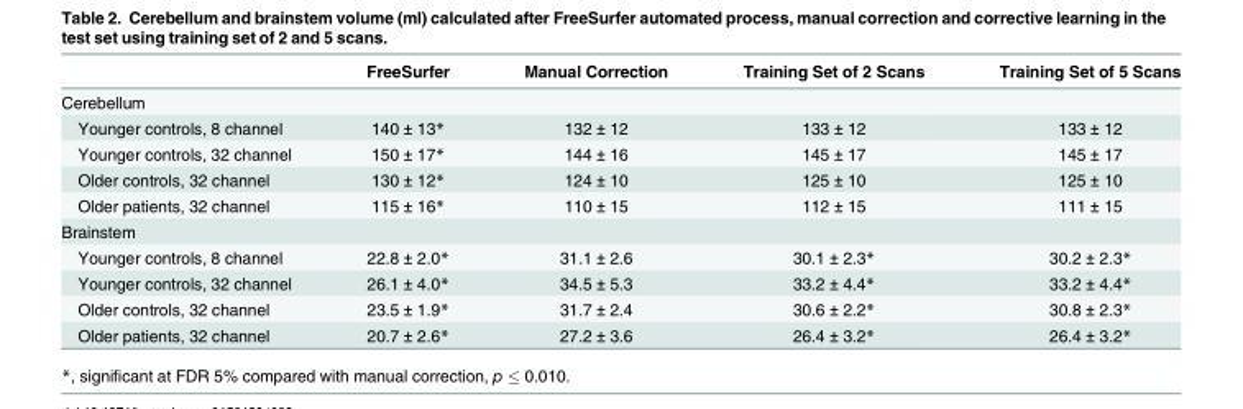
<table><thead><tr><td></td><td>FreeSurfer</td><td>Manual Correction</td><td>Training Set of 2 Scans</td><td>Training Set of 5 Scans</td></tr></thead><tbody><tr><td colspan="5">Cerebellum</td></tr><tr><td>Younger controls, 8 channel</td><td>140 ± 13*</td><td>132 ± 12</td><td>133 ± 12</td><td>133 ± 12</td></tr><tr><td>Younger controls, 32 channel</td><td>150 ± 17*</td><td>144 ± 16</td><td>145 ± 17</td><td>145 ± 17</td></tr><tr><td>Older controls, 32 channel</td><td>130 ± 12*</td><td>124 ± 10</td><td>125 ± 10</td><td>125 ± 10</td></tr><tr><td>Older patients, 32 channel</td><td>115 ± 16*</td><td>110 ± 15</td><td>112 ± 15</td><td>111 ± 15</td></tr><tr><td colspan="5">Brainstem</td></tr><tr><td>Younger controls, 8 channel</td><td>22.8 ± 2.0*</td><td>31.1 ± 2.6</td><td>30.1 ± 2.3*</td><td>30.2 ± 2.3*</td></tr><tr><td>Younger controls, 32 channel</td><td>26.1 ± 4.0*</td><td>34.5 ± 5.3</td><td>33.2 ± 4.4*</td><td>33.2 ± 4.4*</td></tr><tr><td>Older controls, 32 channel</td><td>23.5 ± 1.9*</td><td>31.7 ± 2.4</td><td>30.6 ± 2.2*</td><td>30.8 ± 2.3*</td></tr><tr><td>Older patients, 32 channel</td><td>20.7 ± 2.6*</td><td>27.2 ± 3.6</td><td>26.4 ± 3.2*</td><td>26.4 ± 3.2*</td></tr></tbody></table>